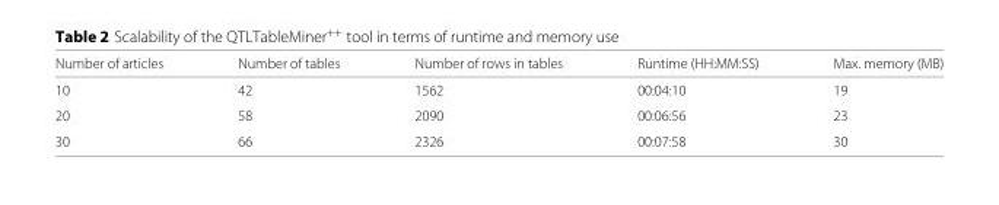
<table><thead><tr><td>Number of articles</td><td>Number of tables</td><td>Number of rows in tables</td><td>Runtime (HH:MM:SS)</td><td>Max. memory (MB)</td></tr></thead><tbody><tr><td>10</td><td>42</td><td>1562</td><td>00:04:10</td><td>19</td></tr><tr><td>20</td><td>58</td><td>2090</td><td>00:06:56</td><td>23</td></tr><tr><td>30</td><td>66</td><td>2326</td><td>00:07:58</td><td>30</td></tr></tbody></table>